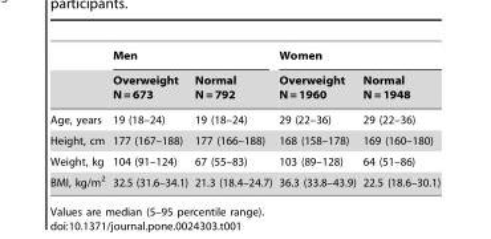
<table><thead><tr><td rowspan="2"></td><td colspan="2">Men</td><td colspan="2">Women</td></tr><tr><td>Overweight N = 673</td><td>Normal N = 792</td><td>Overweight N = 1960</td><td>Normal N = 1948</td></tr></thead><tbody><tr><td>Age, years</td><td>19 (18–24)</td><td>19 (18–24)</td><td>29 (22–36)</td><td>29 (22–36)</td></tr><tr><td>Height, cm</td><td>177 (167–188)</td><td>177 (166–188)</td><td>168 (158–178)</td><td>169 (160–180)</td></tr><tr><td>Weight, kg</td><td>104 (91–124)</td><td>67 (55–83)</td><td>103 (89–128)</td><td>64 (51–86)</td></tr><tr><td>BMI, kg/m<sup>2</sup></td><td>32.5 (31.6–34.1)</td><td>21.3 (18.4–24.7)</td><td>36.3 (33.8–43.9)</td><td>22.5 (18.6–30.1)</td></tr></tbody></table>